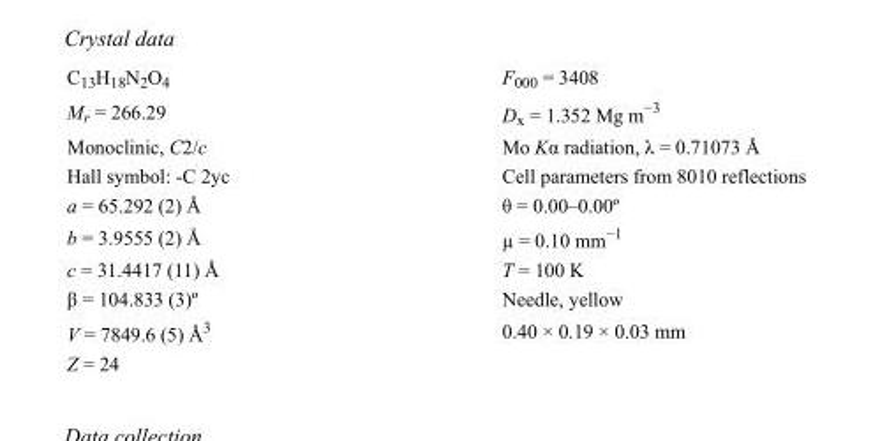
<table><tbody><tr><td>C<sub>13</sub>H<sub>18</sub>N<sub>2</sub>O<sub>4</sub></td><td>F000 = 3408</td></tr><tr><td>M<sub>r</sub> = 266.29</td><td>D<sub>x</sub> = 1.352 Mg m<sup>−3</sup></td></tr><tr><td>Monoclinic, C2/c</td><td>Mo Kα radiation, λ = 0.71073 Å</td></tr><tr><td>Hall symbol: -C 2yc</td><td>Cell parameters from 8010 reflections</td></tr><tr><td>a = 65.292 (2) Å</td><td>θ = 0.00–0.00º</td></tr><tr><td>b = 3.9555 (2) Å</td><td>µ = 0.10 mm<sup>−1</sup></td></tr><tr><td>c = 31.4417 (11) Å</td><td>T = 100 K</td></tr><tr><td>β = 104.833 (3)º</td><td>Needle, yellow</td></tr><tr><td>V = 7849.6 (5) Å<sup>3</sup></td><td>0.40 × 0.19 × 0.03 mm</td></tr><tr><td>Z = 24</td><td></td></tr></tbody></table>